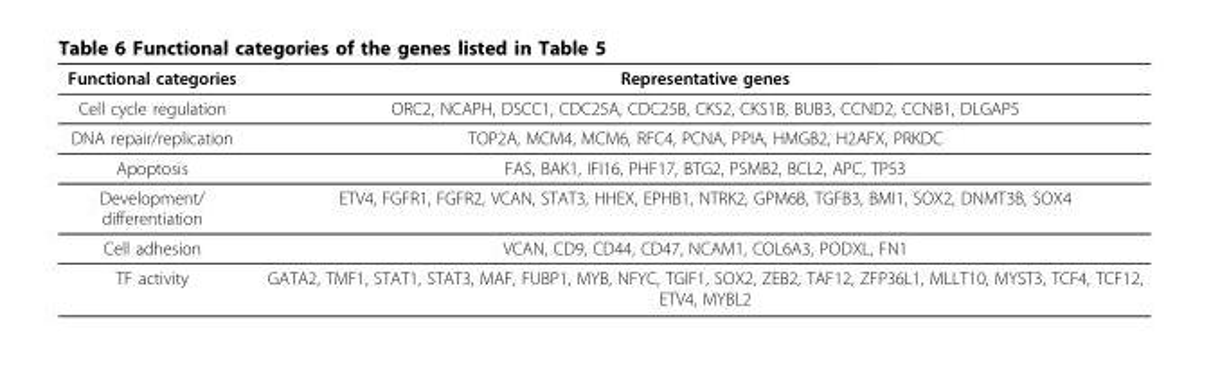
<table><thead><tr><td>Functional categories</td><td>Representative genes</td></tr></thead><tbody><tr><td>Cell cycle regulation</td><td>ORC2, NCAPH, DSCC1, CDC25A, CDC25B, CKS2, CKS1B, BUB3, CCND2, CCNB1, DLGAP5</td></tr><tr><td>DNA repair/replication</td><td>TOP2A, MCM4, MCM6, RFC4, PCNA, PPIA, HMGB2, H2AFX, PRKDC</td></tr><tr><td>Apoptosis</td><td>FAS, BAK1, IFI16, PHF17, BTG2, PSMB2, BCL2, APC, TP53</td></tr><tr><td>Development/ differentiation</td><td>ETV4, FGFR1, FGFR2, VCAN, STAT3, HHEX, EPHB1, NTRK2, GPM6B, TGFB3, BMI1, SOX2, DNMT3B, SOX4</td></tr><tr><td>Cell adhesion</td><td>VCAN, CD9, CD44, CD47, NCAM1, COL6A3, PODXL, FN1</td></tr><tr><td>TF activity</td><td>GATA2, TMF1, STAT1, STAT3, MAF, FUBP1, MYB, NFYC, TGIF1, SOX2, ZEB2, TAF12, ZFP36L1, MLLT10, MYST3, TCF4, TCF12, ETV4, MYBL2</td></tr></tbody></table>